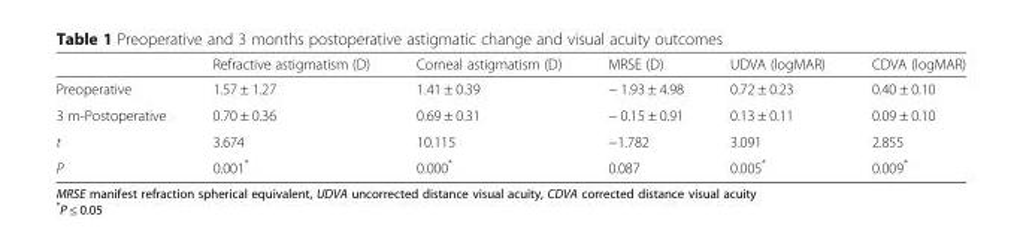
<table><thead><tr><td></td><td>Refractive astigmatism (D)</td><td>Corneal astigmatism (D)</td><td>MRSE (D)</td><td>UDVA (logMAR)</td><td>CDVA (logMAR)</td></tr></thead><tbody><tr><td>Preoperative</td><td>1.57 ± 1.27</td><td>1.41 ± 0.39</td><td>− 1.93 ± 4.98</td><td>0.72 ± 0.23</td><td>0.40 ± 0.10</td></tr><tr><td>3 m-Postoperative</td><td>0.70 ± 0.36</td><td>0.69 ± 0.31</td><td>− 0.15 ± 0.91</td><td>0.13 ± 0.11</td><td>0.09 ± 0.10</td></tr><tr><td>t</td><td>3.674</td><td>10.115</td><td>−1.782</td><td>3.091</td><td>2.855</td></tr><tr><td>P</td><td>0.001*</td><td>0.000*</td><td>0.087</td><td>0.005*</td><td>0.009*</td></tr></tbody></table>